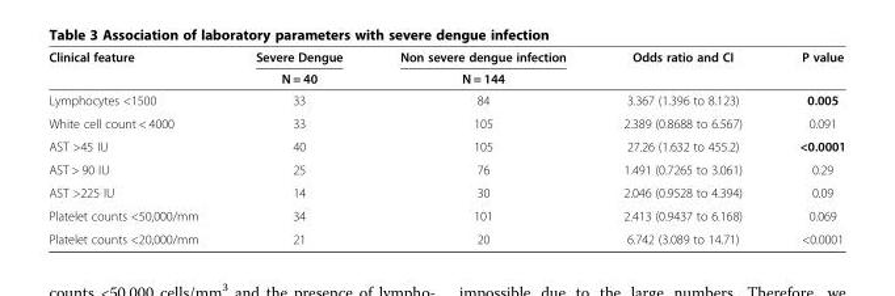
<table><thead><tr><td rowspan="2">Clinical feature</td><td rowspan="2">Severe Dengue N = 40</td><td rowspan="2">Non severe dengue infection N = 144</td><td rowspan="2">Odds ratio and CI</td><td rowspan="2">P value</td></tr><tr></tr></thead><tbody><tr><td>Lymphocytes &lt;1500</td><td>33</td><td>84</td><td>3.367 (1.396 to 8.123)</td><td>0.005</td></tr><tr><td>White cell count &lt; 4000</td><td>33</td><td>105</td><td>2.389 (0.8688 to 6.567)</td><td>0.091</td></tr><tr><td>AST &gt;45 IU</td><td>40</td><td>105</td><td>27.26 (1.632 to 455.2)</td><td>&lt;0.0001</td></tr><tr><td>AST &gt; 90 IU</td><td>25</td><td>76</td><td>1.491 (0.7265 to 3.061)</td><td>0.29</td></tr><tr><td>AST &gt;225 IU</td><td>14</td><td>30</td><td>2.046 (0.9528 to 4.394)</td><td>0.09</td></tr><tr><td>Platelet counts &lt;50,000/mm</td><td>34</td><td>101</td><td>2.413 (0.9437 to 6.168)</td><td>0.069</td></tr><tr><td>Platelet counts &lt;20,000/mm</td><td>21</td><td>20</td><td>6.742 (3.089 to 14.71)</td><td>&lt;0.0001</td></tr></tbody></table>